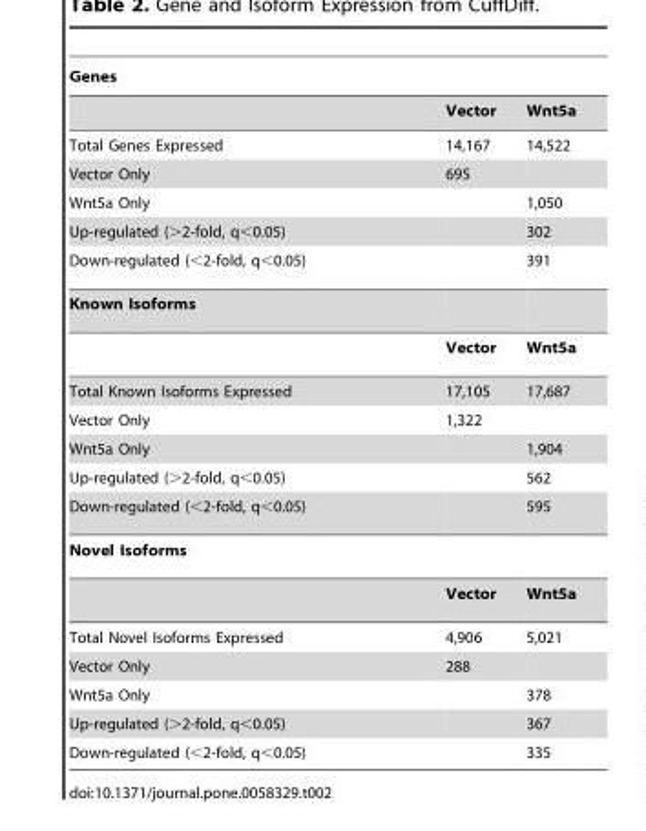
<table><thead><tr><td colspan="3">Genes</td></tr><tr><td></td><td>Vector</td><td>Wnt5a</td></tr></thead><tbody><tr><td>Total Genes Expressed</td><td>14,167</td><td>14,522</td></tr><tr><td>Vector Only</td><td>695</td><td></td></tr><tr><td>Wnt5a Only</td><td></td><td>1,050</td></tr><tr><td>Up-regulated (&gt;2-fold, q&lt;0.05)</td><td></td><td>302</td></tr><tr><td>Down-regulated (&lt;2-fold, q&lt;0.05)</td><td></td><td>391</td></tr><tr><td colspan="3">Known Isoforms</td></tr><tr><td></td><td>Vector</td><td>Wnt5a</td></tr><tr><td>Total Known Isoforms Expressed</td><td>17,105</td><td>17,687</td></tr><tr><td>Vector Only</td><td>1,322</td><td></td></tr><tr><td>Wnt5a Only</td><td></td><td>1,904</td></tr><tr><td>Up-regulated (&gt;2-fold, q&lt;0.05)</td><td></td><td>562</td></tr><tr><td>Down-regulated (&lt;2-fold, q&lt;0.05)</td><td></td><td>595</td></tr><tr><td colspan="3">Novel Isoforms</td></tr><tr><td></td><td>Vector</td><td>Wnt5a</td></tr><tr><td>Total Novel Isoforms Expressed</td><td>4,906</td><td>5,021</td></tr><tr><td>Vector Only</td><td>288</td><td></td></tr><tr><td>Wnt5a Only</td><td></td><td>378</td></tr><tr><td>Up-regulated (&gt;2-fold, q&lt;0.05)</td><td></td><td>367</td></tr><tr><td>Down-regulated (&lt;2-fold, q&lt;0.05)</td><td></td><td>335</td></tr></tbody></table>